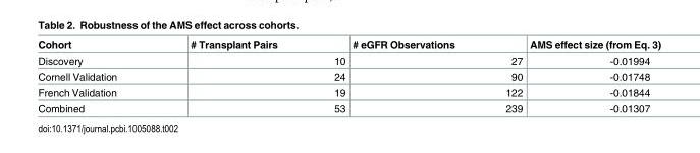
<table><thead><tr><td>Cohort</td><td># Transplant Pairs</td><td># eGFR Observations</td><td>AMS effect size (from Eq. 3)</td></tr></thead><tbody><tr><td>Discovery</td><td>10</td><td>27</td><td>-0.01994</td></tr><tr><td>Cornell Validation</td><td>24</td><td>90</td><td>-0.01748</td></tr><tr><td>French Validation</td><td>19</td><td>122</td><td>-0.01844</td></tr><tr><td>Combined</td><td>53</td><td>239</td><td>-0.01307</td></tr></tbody></table>